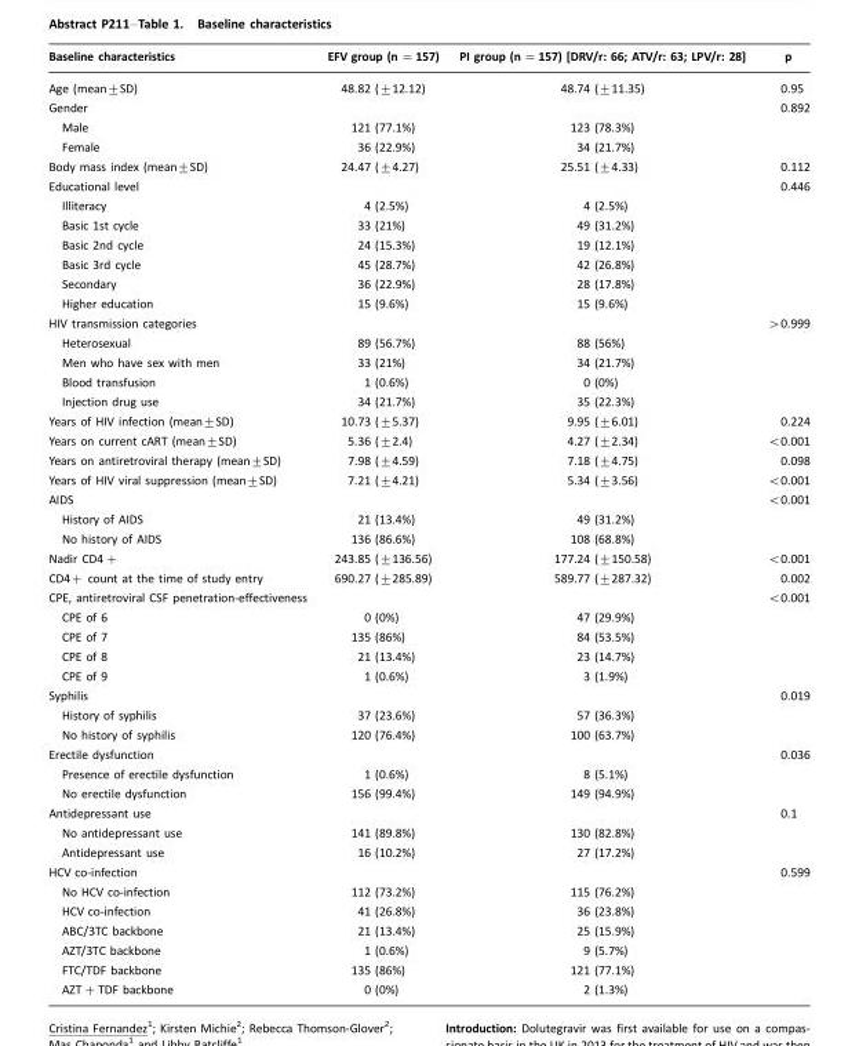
<table><thead><tr><td>Baseline characteristics</td><td>EFV group (n =157)</td><td>PI group (n =157) [DRV/r: 66; ATV/r: 63; LPV/r: 28]</td><td>p</td></tr></thead><tbody><tr><td>Age (mean±SD)</td><td>48.82 (±12.12)</td><td>48.74 (±11.35)</td><td>0.95</td></tr><tr><td>Gender</td><td></td><td></td><td>0.892</td></tr><tr><td>Male</td><td>121 (77.1%)</td><td>123 (78.3%)</td><td></td></tr><tr><td>Female</td><td>36 (22.9%)</td><td>34 (21.7%)</td><td></td></tr><tr><td>Body mass index (mean±SD)</td><td>24.47 (±4.27)</td><td>25.51 (±4.33)</td><td>0.112</td></tr><tr><td>Educational level</td><td></td><td></td><td>0.446</td></tr><tr><td>Illiteracy</td><td>4 (2.5%)</td><td>4 (2.5%)</td><td></td></tr><tr><td>Basic 1st cycle</td><td>33 (21%)</td><td>49 (31.2%)</td><td></td></tr><tr><td>Basic 2nd cycle</td><td>24 (15.3%)</td><td>19 (12.1%)</td><td></td></tr><tr><td>Basic 3rd cycle</td><td>45 (28.7%)</td><td>42 (26.8%)</td><td></td></tr><tr><td>Secondary</td><td>36 (22.9%)</td><td>28 (17.8%)</td><td></td></tr><tr><td>Higher education</td><td>15 (9.6%)</td><td>15 (9.6%)</td><td></td></tr><tr><td>HIV transmission categories</td><td></td><td></td><td>&gt;0.999</td></tr><tr><td>Heterosexual</td><td>89 (56.7%)</td><td>88 (56%)</td><td></td></tr><tr><td>Men who have sex with men</td><td>33 (21%)</td><td>34 (21.7%)</td><td></td></tr><tr><td>Blood transfusion</td><td>1 (0.6%)</td><td>0 (0%)</td><td></td></tr><tr><td>Injection drug use</td><td>34 (21.7%)</td><td>35 (22.3%)</td><td></td></tr><tr><td>Years of HIV infection (mean±SD)</td><td>10.73 (±5.37)</td><td>9.95 (±6.01)</td><td>0.224</td></tr><tr><td>Years on current cART (mean±SD)</td><td>5.36 (±2.4)</td><td>4.27 (±2.34)</td><td>&lt;0.001</td></tr><tr><td>Years on antiretroviral therapy (mean±SD)</td><td>7.98 (±4.59)</td><td>7.18 (±4.75)</td><td>0.098</td></tr><tr><td>Years of HIV viral suppression (mean±SD)</td><td>7.21 (±4.21)</td><td>5.34 (±3.56)</td><td>&lt;0.001</td></tr><tr><td>AIDS</td><td></td><td></td><td>&lt;0.001</td></tr><tr><td>History of AIDS</td><td>21 (13.4%)</td><td>49 (31.2%)</td><td></td></tr><tr><td>No history of AIDS</td><td>136 (86.6%)</td><td>108 (68.8%)</td><td></td></tr><tr><td>Nadir CD4+</td><td>243.85 (±136.56)</td><td>177.24 (±150.58)</td><td>&lt;0.001</td></tr><tr><td>CD4+ count at the time of study entry</td><td>690.27 (±285.89)</td><td>589.77 (±287.32)</td><td>0.002</td></tr><tr><td>CPE, antiretroviral CSF penetration-effectiveness</td><td></td><td></td><td>&lt;0.001</td></tr><tr><td>CPE of 6</td><td>0 (0%)</td><td>47 (29.9%)</td><td></td></tr><tr><td>CPE of 7</td><td>135 (86%)</td><td>84 (53.5%)</td><td></td></tr><tr><td>CPE of 8</td><td>21 (13.4%)</td><td>23 (14.7%)</td><td></td></tr><tr><td>CPE of 9</td><td>1 (0.6%)</td><td>3 (1.9%)</td><td></td></tr><tr><td>Syphilis</td><td></td><td></td><td>0.019</td></tr><tr><td>History of syphilis</td><td>37 (23.6%)</td><td>57 (36.3%)</td><td></td></tr><tr><td>No history of syphilis</td><td>120 (76.4%)</td><td>100 (63.7%)</td><td></td></tr><tr><td>Erectile dysfunction</td><td></td><td></td><td>0.036</td></tr><tr><td>Presence of erectile dysfunction</td><td>1 (0.6%)</td><td>8 (5.1%)</td><td></td></tr><tr><td>No erectile dysfunction</td><td>156 (99.4%)</td><td>149 (94.9%)</td><td></td></tr><tr><td>Antidepressant use</td><td></td><td></td><td>0.1</td></tr><tr><td>No antidepressant use</td><td>141 (89.8%)</td><td>130 (82.8%)</td><td></td></tr><tr><td>Antidepressant use</td><td>16 (10.2%)</td><td>27 (17.2%)</td><td></td></tr><tr><td>HCV co-infection</td><td></td><td></td><td>0.599</td></tr><tr><td>No HCV co-infection</td><td>112 (73.2%)</td><td>115 (76.2%)</td><td></td></tr><tr><td>HCV co-infection</td><td>41 (26.8%)</td><td>36 (23.8%)</td><td></td></tr><tr><td>ABC/3TC backbone</td><td>21 (13.4%)</td><td>25 (15.9%)</td><td></td></tr><tr><td>AZT/3TC backbone</td><td>1 (0.6%)</td><td>9 (5.7%)</td><td></td></tr><tr><td>FTC/TDF backbone</td><td>135 (86%)</td><td>121 (77.1%)</td><td></td></tr><tr><td>AZT+TDF backbone</td><td>0 (0%)</td><td>2 (1.3%)</td><td></td></tr></tbody></table>